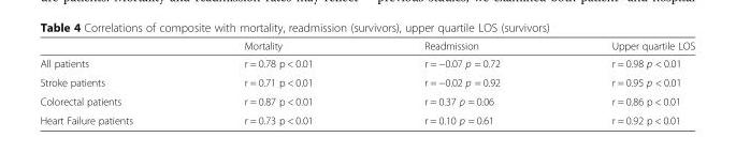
<table><thead><tr><td></td><td>Mortality</td><td>Readmission</td><td>Upper quartile LOS</td></tr></thead><tbody><tr><td>All patients</td><td>r = 0.78 p &lt; 0.01</td><td>r = −0.07 p = 0.72</td><td>r = 0.98 p &lt; 0.01</td></tr><tr><td>Stroke patients</td><td>r = 0.71 p &lt; 0.01</td><td>r = −0.02 p = 0.92</td><td>r = 0.95 p &lt; 0.01</td></tr><tr><td>Colorectal patients</td><td>r = 0.87 p &lt; 0.01</td><td>r = 0.37 p = 0.06</td><td>r = 0.86 p &lt; 0.01</td></tr><tr><td>Heart Failure patients</td><td>r = 0.73 p &lt; 0.01</td><td>r = 0.10 p = 0.61</td><td>r = 0.92 p &lt; 0.01</td></tr></tbody></table>